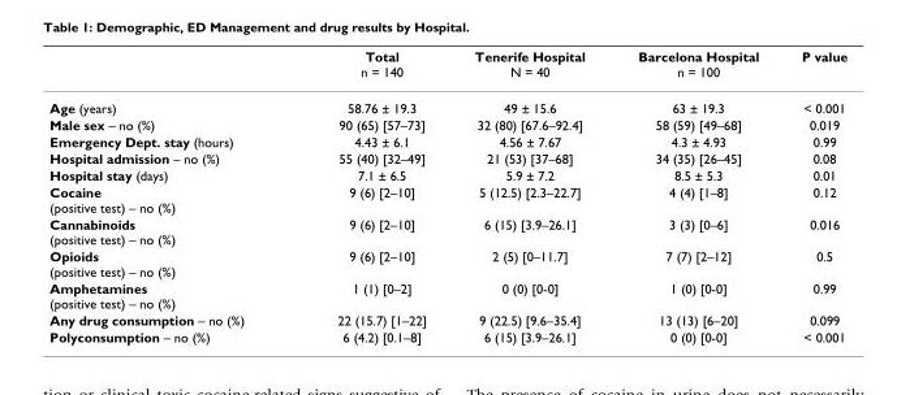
<table><thead><tr><td></td><td>Total n = 140</td><td>Tenerife Hospital N = 40</td><td>Barcelona Hospital n = 100</td><td>P value</td></tr></thead><tbody><tr><td>Age (years)</td><td>58.76 ± 19.3</td><td>49 ± 15.6</td><td>63 ± 19.3</td><td>&lt; 0.001</td></tr><tr><td>Male sex – no (%)</td><td>90 (65) [57–73]</td><td>32 (80) [67.6–92.4]</td><td>58 (59) [49–68]</td><td>0.019</td></tr><tr><td>Emergency Dept. stay (hours)</td><td>4.43 ± 6.1</td><td>4.56 ± 7.67</td><td>4.3 ± 4.93</td><td>0.99</td></tr><tr><td>Hospital admission – no (%)</td><td>55 (40) [32–49]</td><td>21 (53) [37–68]</td><td>34 (35) [26–45]</td><td>0.08</td></tr><tr><td>Hospital stay (days)</td><td>7.1 ± 6.5</td><td>5.9 ± 7.2</td><td>8.5 ± 5.3</td><td>0.01</td></tr><tr><td>Cocaine (positive test) – no (%)</td><td>9 (6) [2–10]</td><td>5 (12.5) [2.3–22.7]</td><td>4 (4) [1–8]</td><td>0.12</td></tr><tr><td>Cannabinoids (positive test) – no (%)</td><td>9 (6) [2–10]</td><td>6 (15) [3.9–26.1]</td><td>3 (3) [0–6]</td><td>0.016</td></tr><tr><td>Opioids (positive test) – no (%)</td><td>9 (6) [2–10]</td><td>2 (5) [0–11.7]</td><td>7 (7) [2–12]</td><td>0.5</td></tr><tr><td>Amphetamines (positive test) – no (%)</td><td>1 (1) [0–2]</td><td>0 (0) [0-0]</td><td>1 (0) [0-0]</td><td>0.99</td></tr><tr><td>Any drug consumption – no (%)</td><td>22 (15.7) [1–22]</td><td>9 (22.5) [9.6–35.4]</td><td>13 (13) [6–20]</td><td>0.099</td></tr><tr><td>Polyconsumption – no (%)</td><td>6 (4.2) [0.1–8]</td><td>6 (15) [3.9–26.1]</td><td>0 (0) [0-0]</td><td>&lt; 0.001</td></tr></tbody></table>